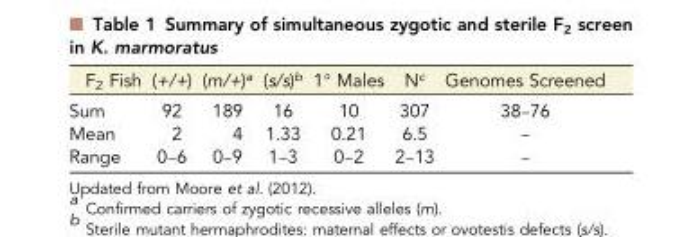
<table><thead><tr><td>F<sub>2</sub> Fish</td><td>(+/+)</td><td>(m/+)<sup>a</sup></td><td>(s/s)<sup>b</sup></td><td>1° Males</td><td>N<sup>c</sup></td><td>Genomes Screened</td></tr></thead><tbody><tr><td>Sum</td><td>92</td><td>189</td><td>16</td><td>10</td><td>307</td><td>38–76</td></tr><tr><td>Mean</td><td>2</td><td>4</td><td>1.33</td><td>0.21</td><td>6.5</td><td>–</td></tr><tr><td>Range</td><td>0–6</td><td>0–9</td><td>1–3</td><td>0–2</td><td>2–13</td><td>–</td></tr></tbody></table>